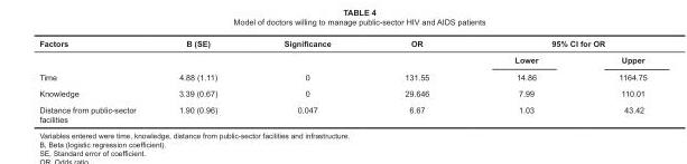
<table><thead><tr><td rowspan="2">Factors</td><td rowspan="2">B (SE)</td><td rowspan="2">Significance</td><td rowspan="2">OR</td><td colspan="2">95% CI for OR</td></tr><tr><td>Lower</td><td>Upper</td></tr></thead><tbody><tr><td>Time</td><td>4.88 (1.11)</td><td>0</td><td>131.55</td><td>14.86</td><td>1164.75</td></tr><tr><td>Knowledge</td><td>3.39 (0.67)</td><td>0</td><td>29.646</td><td>7.99</td><td>110.01</td></tr><tr><td>Distance from public-sector facilities</td><td>1.90 (0.96)</td><td>0.047</td><td>6.67</td><td>1.03</td><td>43.42</td></tr></tbody></table>